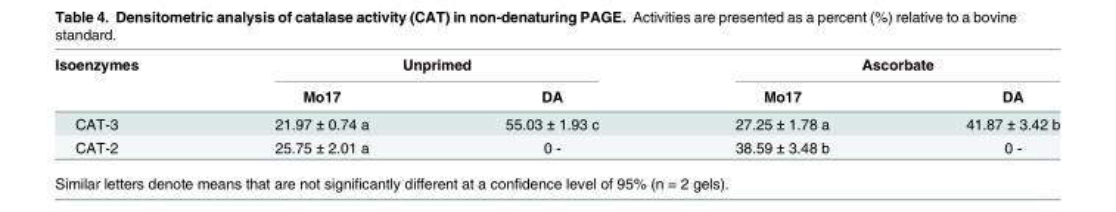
<table><thead><tr><td rowspan="2">Isoenzymes</td><td colspan="2">Unprimed</td><td colspan="2">Ascorbate</td></tr><tr><td>Mo17</td><td>DA</td><td>Mo17</td><td>DA</td></tr></thead><tbody><tr><td>CAT-3</td><td>21.97 ± 0.74 a</td><td>55.03 ± 1.93 c</td><td>27.25 ± 1.78 a</td><td>41.87 ± 3.42 b</td></tr><tr><td>CAT-2</td><td>25.75 ± 2.01 a</td><td>0 -</td><td>38.59 ± 3.48 b</td><td>0 -</td></tr></tbody></table>